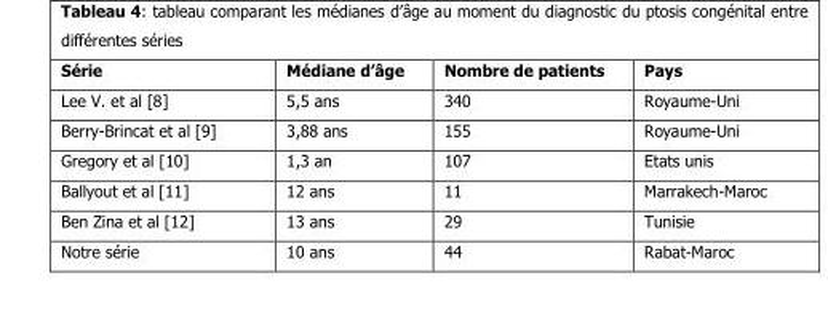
<table><thead><tr><td>Série</td><td>Médiane d’âge</td><td>Nombre de patients</td><td>Pays</td></tr></thead><tbody><tr><td>Lee V. et al [8]</td><td>5,5 ans</td><td>340</td><td>Royaume-Uni</td></tr><tr><td>Berry-Brincat et al [9]</td><td>3,88 ans</td><td>155</td><td>Royaume-Uni</td></tr><tr><td>Gregory et al [10]</td><td>1,3 an</td><td>107</td><td>Etats unis</td></tr><tr><td>Ballyout et al [11]</td><td>12 ans</td><td>11</td><td>Marrakech-Maroc</td></tr><tr><td>Ben Zina et al [12]</td><td>13 ans</td><td>29</td><td>Tunisie</td></tr><tr><td>Notre série</td><td>10 ans</td><td>44</td><td>Rabat-Maroc</td></tr></tbody></table>